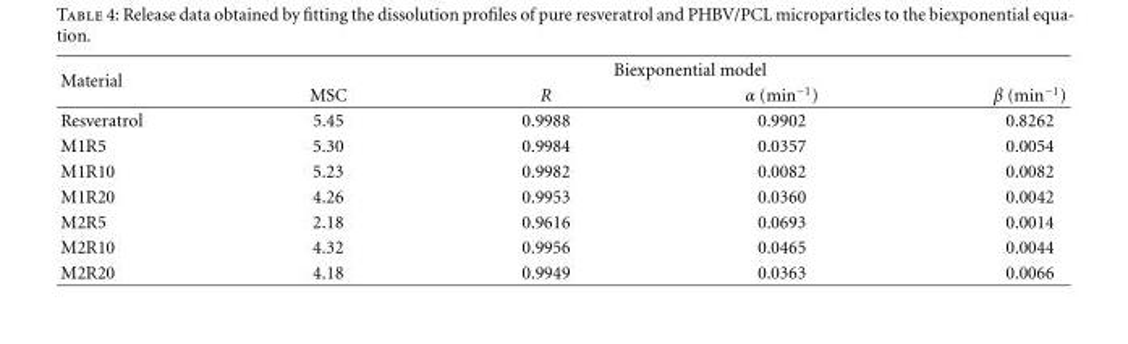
<table><thead><tr><td rowspan="2">Material</td><td colspan="4">Biexponential model</td></tr><tr><td>MSC</td><td>R</td><td>α (min<sup>−1</sup>)</td><td>β (min<sup>−1</sup>)</td></tr></thead><tbody><tr><td>Resveratrol</td><td>5.45</td><td>0.9988</td><td>0.9902</td><td>0.8262</td></tr><tr><td>M1R5</td><td>5.30</td><td>0.9984</td><td>0.0357</td><td>0.0054</td></tr><tr><td>M1R10</td><td>5.23</td><td>0.9982</td><td>0.0082</td><td>0.0082</td></tr><tr><td>M1R20</td><td>4.26</td><td>0.9953</td><td>0.0360</td><td>0.0042</td></tr><tr><td>M2R5</td><td>2.18</td><td>0.9616</td><td>0.0693</td><td>0.0014</td></tr><tr><td>M2R10</td><td>4.32</td><td>0.9956</td><td>0.0465</td><td>0.0044</td></tr><tr><td>M2R20</td><td>4.18</td><td>0.9949</td><td>0.0363</td><td>0.0066</td></tr></tbody></table>